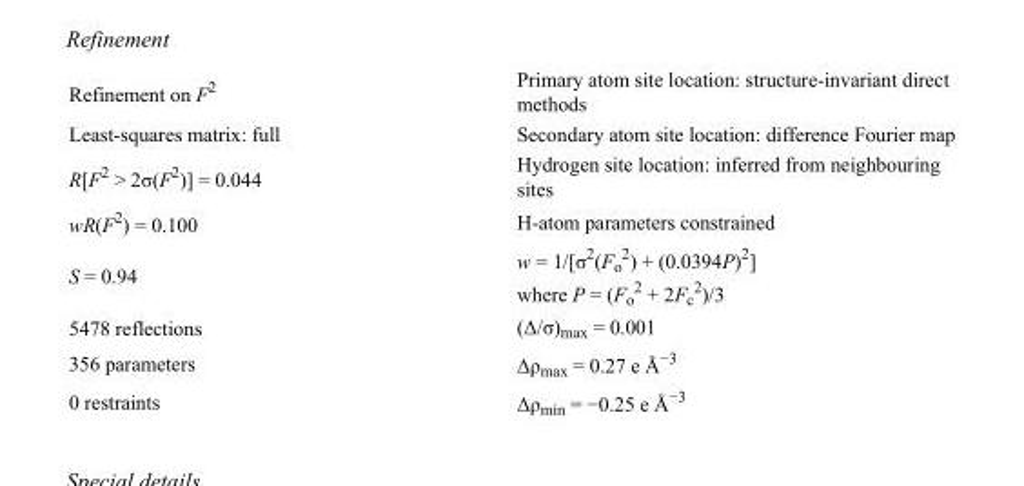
<table><tbody><tr><td>Refinement on F<sup>2</sup></td><td>Primary atom site location: structure-invariant direct methods</td></tr><tr><td>Least-squares matrix: full</td><td>Secondary atom site location: difference Fourier map</td></tr><tr><td>R[F<sup>2</sup> &gt; 2σ(F<sup>2</sup>)] = 0.044</td><td>Hydrogen site location: inferred from neighbouring sites</td></tr><tr><td>wR(F<sup>2</sup>) = 0.100</td><td>H-atom parameters constrained</td></tr><tr><td>S = 0.94</td><td>w = 1/[σ<sup>2</sup>(F<sub>o</sub> <sup>2</sup>) + (0.0394P)<sup>2</sup>] where P = (F<sub>o</sub> <sup>2</sup> + 2F<sub>c</sub> <sup>2</sup>)/3</td></tr><tr><td>5478 reflections</td><td>(Δ/σ)<sub>max</sub> = 0.001</td></tr><tr><td>356 parameters</td><td>Δρ<sub>max</sub> = 0.27 e Å<sup>−3</sup></td></tr><tr><td>0 restraints</td><td>Δρ<sub>min</sub> = −0.25 e Å<sup>−3</sup></td></tr></tbody></table>